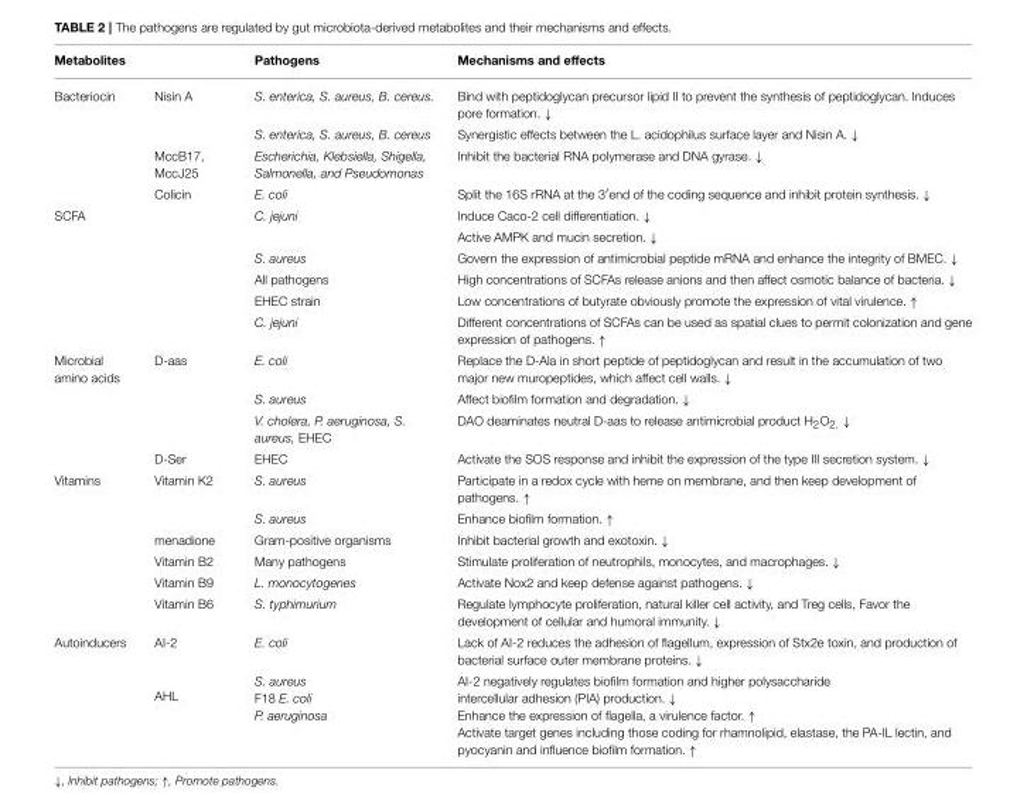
<table><thead><tr><td>Metabolites</td><td></td><td>Pathogens</td><td>Mechanisms and effects</td></tr></thead><tbody><tr><td rowspan="4">Bacteriocin</td><td>Nisin A</td><td>S. enterica, S. aureus, B. cereus.</td><td>Bind with peptidoglycan precursor lipid II to prevent the synthesis of peptidoglycan. Induces pore formation. ↓</td></tr><tr><td></td><td>S. enterica, S. aureus, B. cereus</td><td>Synergistic effects between the L. acidophilus surface layer and Nisin A. ↓</td></tr><tr><td>MccB17, MccJ25</td><td>Escherichia, Klebsiella, Shigella, Salmonella, and Pseudomonas</td><td>Inhibit the bacterial RNA polymerase and DNA gyrase. ↓</td></tr><tr><td>Colicin</td><td>E. coli</td><td>Split the 16S rRNA at the 3′end of the coding sequence and inhibit protein synthesis. ↓</td></tr><tr><td rowspan="6">SCFA</td><td></td><td>C. jejuni</td><td>Induce Caco-2 cell differentiation. ↓</td></tr><tr><td></td><td></td><td>Active AMPK and mucin secretion. ↓</td></tr><tr><td></td><td>S. aureus</td><td>Govern the expression of antimicrobial peptide mRNA and enhance the integrity of BMEC. ↓</td></tr><tr><td></td><td>All pathogens</td><td>High concentrations of SCFAs release anions and then affect osmotic balance of bacteria. ↓</td></tr><tr><td></td><td>EHEC strain</td><td>Low concentrations of butyrate obviously promote the expression of vital virulence. ↑</td></tr><tr><td></td><td>C. jejuni</td><td>Different concentrations of SCFAs can be used as spatial clues to permit colonization and gene expression of pathogens. ↑</td></tr><tr><td rowspan="4">Microbial amino acids</td><td>D-aas</td><td>E. coli</td><td>Replace the D-Ala in short peptide of peptidoglycan and result in the accumulation of two major new muropeptides, which affect cell walls. ↓</td></tr><tr><td></td><td>S. aureus</td><td>Affect biofilm formation and degradation. ↓</td></tr><tr><td></td><td>V. cholera, P. aeruginosa, S. aureus, EHEC</td><td>DAO deaminates neutral D-aas to release antimicrobial product H<sub>2</sub>O<sub>2.</sub> ↓</td></tr><tr><td>D-Ser</td><td>EHEC</td><td>Activate the SOS response and inhibit the expression of the type III secretion system. ↓</td></tr><tr><td rowspan="6">Vitamins</td><td>Vitamin K2</td><td>S. aureus</td><td>Participate in a redox cycle with heme on membrane, and then keep development of pathogens. ↑</td></tr><tr><td></td><td>S. aureus</td><td>Enhance biofilm formation. ↑</td></tr><tr><td>menadione</td><td>Gram-positive organisms</td><td>Inhibit bacterial growth and exotoxin. ↓</td></tr><tr><td>Vitamin B2</td><td>Many pathogens</td><td>Stimulate proliferation of neutrophils, monocytes, and macrophages. ↓</td></tr><tr><td>Vitamin B9</td><td>L. monocytogenes</td><td>Activate Nox2 and keep defense against pathogens. ↓</td></tr><tr><td>Vitamin B6</td><td>S. typhimurium</td><td>Regulate lymphocyte proliferation, natural killer cell activity, and Treg cells, Favor the development of cellular and humoral immunity. ↓</td></tr><tr><td rowspan="2">Autoinducers</td><td>AI-2</td><td>E. coli</td><td>Lack of AI-2 reduces the adhesion of flagellum, expression of Stx2e toxin, and production of bacterial surface outer membrane proteins. ↓</td></tr><tr><td>AHL</td><td>S. aureus F18 E. coli P. aeruginosa</td><td>AI-2 negatively regulates biofilm formation and higher polysaccharide intercellular adhesion (PIA) production. ↓ Enhance the expression of flagella, a virulence factor. ↑ Activate target genes including those coding for rhamnolipid, elastase, the PA-IL lectin, and pyocyanin and influence biofilm formation. ↑</td></tr></tbody></table>